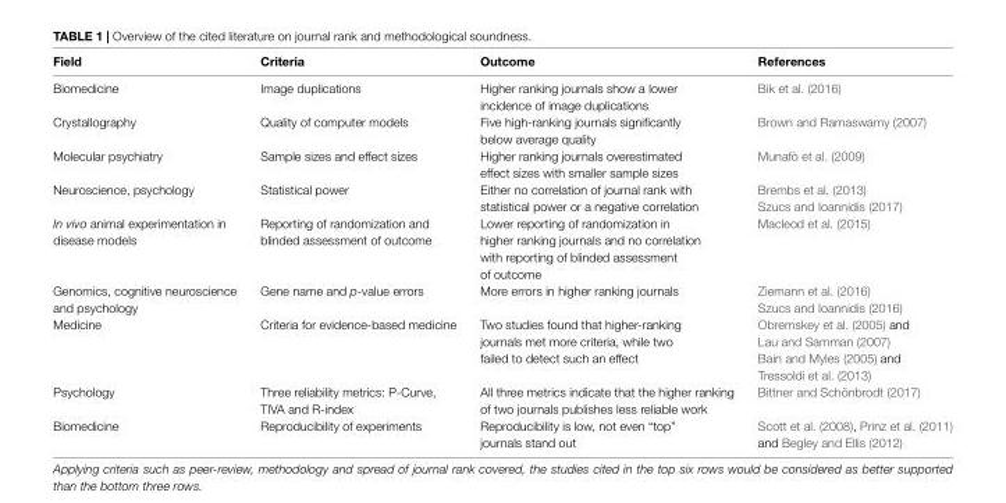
<table><thead><tr><td>Field</td><td>Criteria</td><td>Outcome</td><td>References</td></tr></thead><tbody><tr><td>Biomedicine</td><td>Image duplications</td><td>Higher ranking journals show a lower incidence of image duplications</td><td>Bik et al. (2016)</td></tr><tr><td>Crystallography</td><td>Quality of computer models</td><td>Five high-ranking journals significantly below average quality</td><td>Brown and Ramaswamy (2007)</td></tr><tr><td>Molecular psychiatry</td><td>Sample sizes and effect sizes</td><td>Higher ranking journals overestimated effect sizes with smaller sample sizes</td><td>Munafò et al. (2009)</td></tr><tr><td>Neuroscience, psychology</td><td>Statistical power</td><td>Either no correlation of journal rank with statistical power or a negative correlation</td><td>Brembs et al. (2013) Szucs and Ioannidis (2017)</td></tr><tr><td>In vivo animal experimentation in disease models</td><td>Reporting of randomization and blinded assessment of outcome</td><td>Lower reporting of randomization in higher ranking journals and no correlation with reporting of blinded assessment of outcome</td><td>Macleod et al. (2015)</td></tr><tr><td>Genomics, cognitive neuroscience and psychology</td><td>Gene name and p-value errors</td><td>More errors in higher ranking journals</td><td>Ziemann et al. (2016) Szucs and Ioannidis (2016)</td></tr><tr><td>Medicine</td><td>Criteria for evidence-based medicine</td><td>Two studies found that higher-ranking journals met more criteria, while two failed to detect such an effect</td><td>Obremskey et al. (2005) and Lau and Samman (2007) Bain and Myles (2005) and Tressoldi et al. (2013)</td></tr><tr><td>Psychology</td><td>Three reliability metrics: P-Curve, TIVA and R-index</td><td>All three metrics indicate that the higher ranking of two journals publishes less reliable work</td><td>Bittner and Schönbrodt (2017)</td></tr><tr><td>Biomedicine</td><td>Reproducibility of experiments</td><td>Reproducibility is low, not even “top” journals stand out</td><td>Scott et al. (2008), Prinz et al. (2011) and Begley and Ellis (2012)</td></tr></tbody></table>